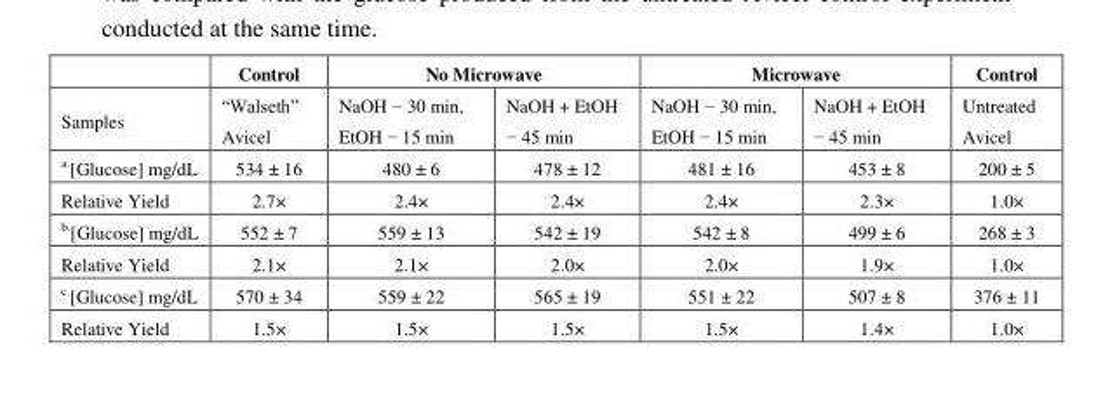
<table><thead><tr><td rowspan="2">Samples</td><td rowspan="2">Control ―Walseth‖ Avicel</td><td colspan="2">No Microwave</td><td colspan="2">Microwave</td><td rowspan="2">Control Untreated Avicel</td></tr><tr><td>NaOH − 30 min, EtOH − 15 min</td><td>NaOH + EtOH − 45 min</td><td>NaOH − 30 min, EtOH − 15 min</td><td>NaOH + EtOH − 45 min</td></tr></thead><tbody><tr><td><sup>a</sup>.[Glucose] mg/dL</td><td>534 ± 16</td><td>480 ± 6</td><td>478 ± 12</td><td>481 ± 16</td><td>453 ± 8</td><td>200 ± 5</td></tr><tr><td>Relative Yield</td><td>2.7×</td><td>2.4×</td><td>2.4×</td><td>2.4×</td><td>2.3×</td><td>1.0×</td></tr><tr><td><sup>b</sup>.[Glucose] mg/dL</td><td>552 ± 7</td><td>559 ± 13</td><td>542 ± 19</td><td>542 ± 8</td><td>499 ± 6</td><td>268 ± 3</td></tr><tr><td>Relative Yield</td><td>2.1×</td><td>2.1×</td><td>2.0×</td><td>2.0×</td><td>1.9×</td><td>1.0×</td></tr><tr><td><sup>c</sup>.[Glucose] mg/dL</td><td>570 ± 34</td><td>559 ± 22</td><td>565 ± 19</td><td>551 ± 22</td><td>507 ± 8</td><td>376 ± 11</td></tr><tr><td>Relative Yield</td><td>1.5×</td><td>1.5×</td><td>1.5×</td><td>1.5×</td><td>1.4×</td><td>1.0×</td></tr></tbody></table>